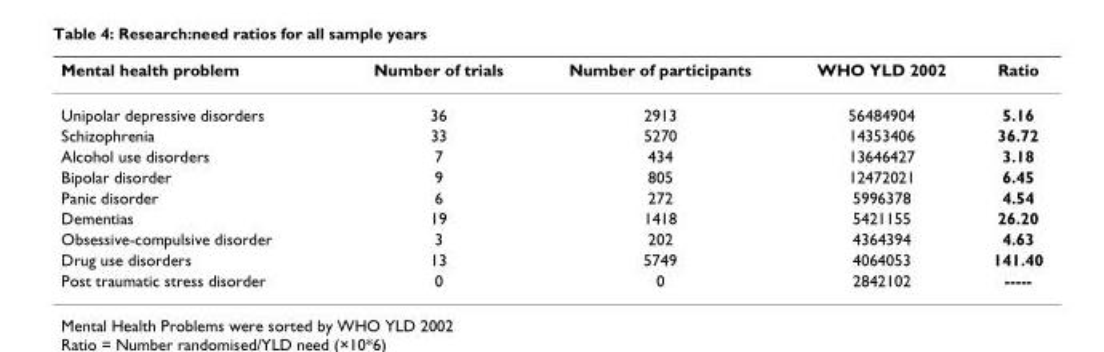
<table><thead><tr><td>Mental health problem</td><td>Number of trials</td><td>Number of participants</td><td>WHO YLD 2002</td><td>Ratio</td></tr></thead><tbody><tr><td>Unipolar depressive disorders</td><td>36</td><td>2913</td><td>56484904</td><td>5.16</td></tr><tr><td>Schizophrenia</td><td>33</td><td>5270</td><td>14353406</td><td>36.72</td></tr><tr><td>Alcohol use disorders</td><td>7</td><td>434</td><td>13646427</td><td>3.18</td></tr><tr><td>Bipolar disorder</td><td>9</td><td>805</td><td>12472021</td><td>6.45</td></tr><tr><td>Panic disorder</td><td>6</td><td>272</td><td>5996378</td><td>4.54</td></tr><tr><td>Dementias</td><td>19</td><td>1418</td><td>5421155</td><td>26.20</td></tr><tr><td>Obsessive-compulsive disorder</td><td>3</td><td>202</td><td>4364394</td><td>4.63</td></tr><tr><td>Drug use disorders</td><td>13</td><td>5749</td><td>4064053</td><td>141.40</td></tr><tr><td>Post traumatic stress disorder</td><td>0</td><td>0</td><td>2842102</td><td>-----</td></tr></tbody></table>